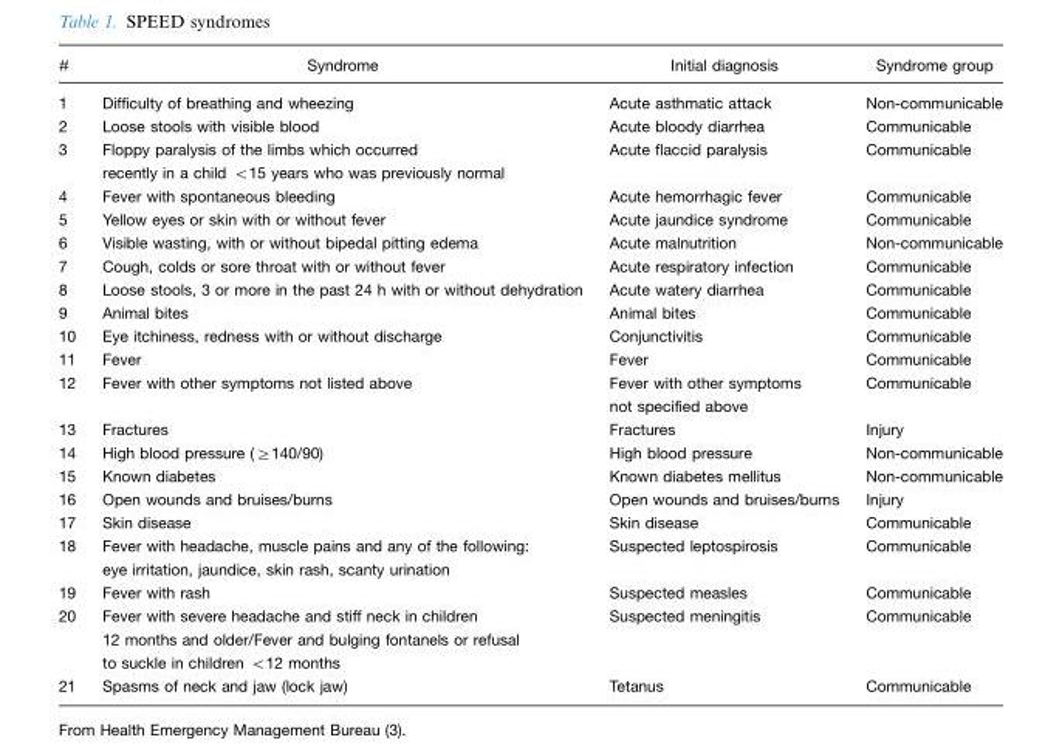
<table><thead><tr><td>#</td><td>Syndrome</td><td>Initial diagnosis</td><td>Syndrome group</td></tr></thead><tbody><tr><td>1</td><td>Difficulty of breathing and wheezing</td><td>Acute asthmatic attack</td><td>Non-communicable</td></tr><tr><td>2</td><td>Loose stools with visible blood</td><td>Acute bloody diarrhea</td><td>Communicable</td></tr><tr><td>3</td><td>Floppy paralysis of the limbs which occurred recently in a child &lt;15 years who was previously normal</td><td>Acute flaccid paralysis</td><td>Communicable</td></tr><tr><td>4</td><td>Fever with spontaneous bleeding</td><td>Acute hemorrhagic fever</td><td>Communicable</td></tr><tr><td>5</td><td>Yellow eyes or skin with or without fever</td><td>Acute jaundice syndrome</td><td>Communicable</td></tr><tr><td>6</td><td>Visible wasting, with or without bipedal pitting edema</td><td>Acute malnutrition</td><td>Non-communicable</td></tr><tr><td>7</td><td>Cough, colds or sore throat with or without fever</td><td>Acute respiratory infection</td><td>Communicable</td></tr><tr><td>8</td><td>Loose stools, 3 or more in the past 24 h with or without dehydration</td><td>Acute watery diarrhea</td><td>Communicable</td></tr><tr><td>9</td><td>Animal bites</td><td>Animal bites</td><td>Communicable</td></tr><tr><td>10</td><td>Eye itchiness, redness with or without discharge</td><td>Conjunctivitis</td><td>Communicable</td></tr><tr><td>11</td><td>Fever</td><td>Fever</td><td>Communicable</td></tr><tr><td>12</td><td>Fever with other symptoms not listed above</td><td>Fever with other symptoms not specified above</td><td>Communicable</td></tr><tr><td>13</td><td>Fractures</td><td>Fractures</td><td>Injury</td></tr><tr><td>14</td><td>High blood pressure (≥140/90)</td><td>High blood pressure</td><td>Non-communicable</td></tr><tr><td>15</td><td>Known diabetes</td><td>Known diabetes mellitus</td><td>Non-communicable</td></tr><tr><td>16</td><td>Open wounds and bruises/burns</td><td>Open wounds and bruises/burns</td><td>Injury</td></tr><tr><td>17</td><td>Skin disease</td><td>Skin disease</td><td>Communicable</td></tr><tr><td>18</td><td>Fever with headache, muscle pains and any of the following: eye irritation, jaundice, skin rash, scanty urination</td><td>Suspected leptospirosis</td><td>Communicable</td></tr><tr><td>19</td><td>Fever with rash</td><td>Suspected measles</td><td>Communicable</td></tr><tr><td>20</td><td>Fever with severe headache and stiff neck in children 12 months and older/Fever and bulging fontanels or refusal to suckle in children &lt;12 months</td><td>Suspected meningitis</td><td>Communicable</td></tr><tr><td>21</td><td>Spasms of neck and jaw (lock jaw)</td><td>Tetanus</td><td>Communicable</td></tr></tbody></table>